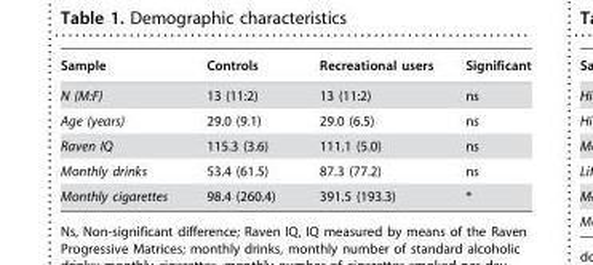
<table><thead><tr><td>Sample</td><td>Controls</td><td>Recreational users</td><td>Significant</td></tr></thead><tbody><tr><td>N (M:F)</td><td>13 (11:2)</td><td>13 (11:2)</td><td>ns</td></tr><tr><td>Age (years)</td><td>29.0 (9.1)</td><td>29.0 (6.5)</td><td>ns</td></tr><tr><td>Raven IQ</td><td>115.3 (3.6)</td><td>111.1 (5.0)</td><td>ns</td></tr><tr><td>Monthly drinks</td><td>53.4 (61.5)</td><td>87.3 (77.2)</td><td>ns</td></tr><tr><td>Monthly cigarettes</td><td>98.4 (260.4)</td><td>391.5 (193.3)</td><td>*</td></tr></tbody></table>